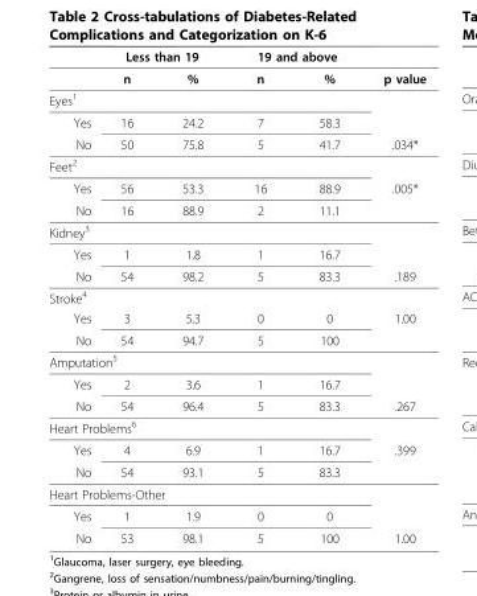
<table><thead><tr><td rowspan="2"></td><td colspan="2">Less than 19</td><td colspan="2">19 and above</td><td rowspan="2">p value</td></tr><tr><td>n</td><td>%</td><td>n</td><td>%</td></tr></thead><tbody><tr><td colspan="6">Eyes<sup>1</sup></td></tr><tr><td>Yes</td><td>16</td><td>24.2</td><td>7</td><td>58.3</td><td></td></tr><tr><td>No</td><td>50</td><td>75.8</td><td>5</td><td>41.7</td><td>.034*</td></tr><tr><td colspan="6">Feet<sup>2</sup></td></tr><tr><td>Yes</td><td>56</td><td>53.3</td><td>16</td><td>88.9</td><td>.005*</td></tr><tr><td>No</td><td>16</td><td>88.9</td><td>2</td><td>11.1</td><td></td></tr><tr><td colspan="6">Kidney<sup>3</sup></td></tr><tr><td>Yes</td><td>1</td><td>1.8</td><td>1</td><td>16.7</td><td></td></tr><tr><td>No</td><td>54</td><td>98.2</td><td>5</td><td>83.3</td><td>.189</td></tr><tr><td colspan="6">Stroke<sup>4</sup></td></tr><tr><td>Yes</td><td>3</td><td>5.3</td><td>0</td><td>0</td><td>1.00</td></tr><tr><td>No</td><td>54</td><td>94.7</td><td>5</td><td>100</td><td></td></tr><tr><td colspan="6">Amputation<sup>5</sup></td></tr><tr><td>Yes</td><td>2</td><td>3.6</td><td>1</td><td>16.7</td><td></td></tr><tr><td>No</td><td>54</td><td>96.4</td><td>5</td><td>83.3</td><td>.267</td></tr><tr><td colspan="6">Heart Problems<sup>6</sup></td></tr><tr><td>Yes</td><td>4</td><td>6.9</td><td>1</td><td>16.7</td><td>.399</td></tr><tr><td>No</td><td>54</td><td>93.1</td><td>5</td><td>83.3</td><td></td></tr><tr><td colspan="6">Heart Problems-Other</td></tr><tr><td>Yes</td><td>1</td><td>1.9</td><td>0</td><td>0</td><td></td></tr><tr><td>No</td><td>53</td><td>98.1</td><td>5</td><td>100</td><td>1.00</td></tr></tbody></table>